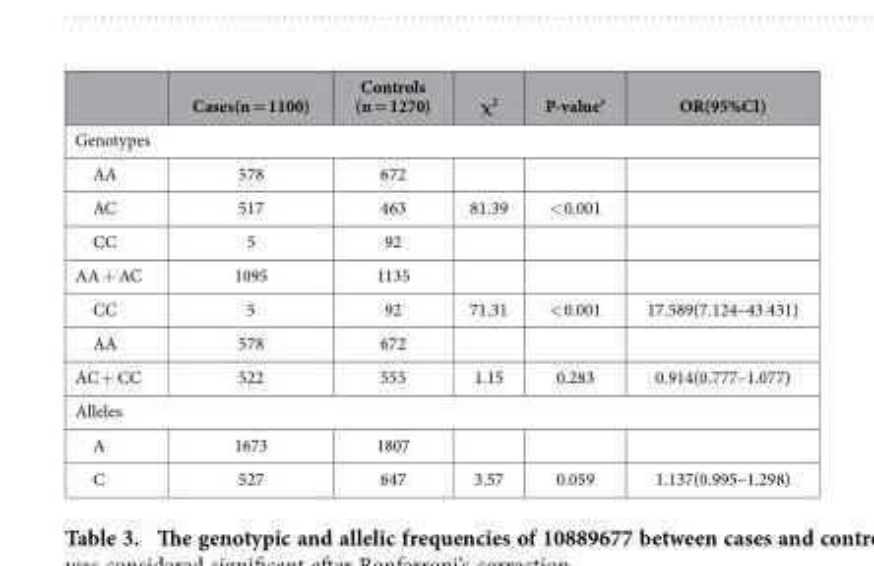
<table><thead><tr><td></td><td>Cases(n = 1100)</td><td>Controls (n = 1270)</td><td>χ<sup>2</sup></td><td>P-value#</td><td>OR(95%CI)</td></tr></thead><tbody><tr><td colspan="6">Genotypes</td></tr><tr><td>AA</td><td>578</td><td>672</td><td></td><td></td><td></td></tr><tr><td>AC</td><td>517</td><td>463</td><td>81.39</td><td>&lt; 0.001</td><td></td></tr><tr><td>CC</td><td>5</td><td>92</td><td></td><td></td><td></td></tr><tr><td>AA + AC</td><td>1095</td><td>1135</td><td></td><td></td><td></td></tr><tr><td>CC</td><td>5</td><td>92</td><td>71.31</td><td>&lt; 0.001</td><td>17.589(7.124–43.431)</td></tr><tr><td>AA</td><td>578</td><td>672</td><td></td><td></td><td></td></tr><tr><td>AC + CC</td><td>522</td><td>555</td><td>1.15</td><td>0.283</td><td>0.914(0.777–1.077)</td></tr><tr><td colspan="6">Alleles</td></tr><tr><td>A</td><td>1673</td><td>1807</td><td></td><td></td><td></td></tr><tr><td>C</td><td>527</td><td>647</td><td>3.57</td><td>0.059</td><td>1.137(0.995–1.298)</td></tr></tbody></table>